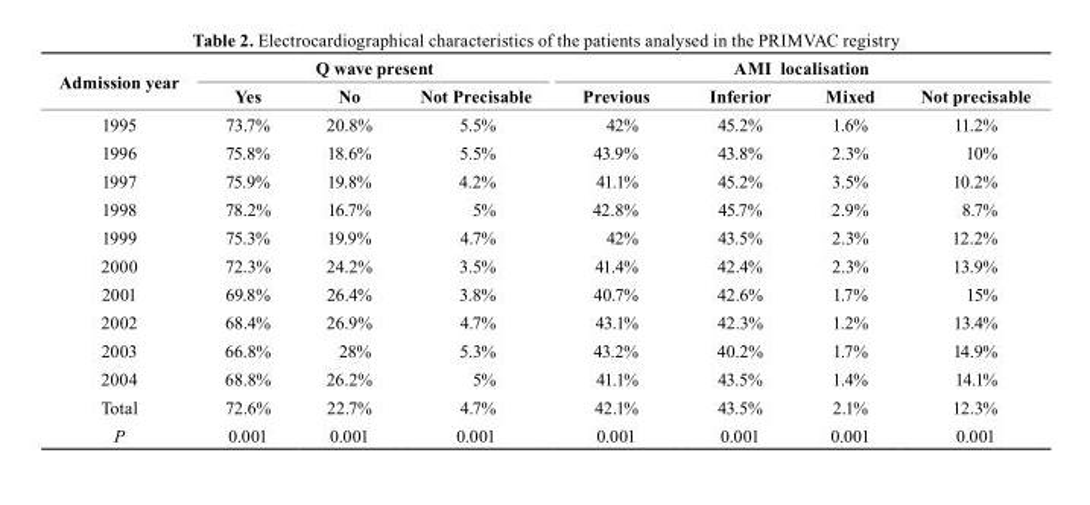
<table><thead><tr><td rowspan="2">Admission year</td><td colspan="3">Q wave present</td><td colspan="4">AMI localisation</td></tr><tr><td>Yes</td><td>No</td><td>not Precisable</td><td>Previous</td><td>Inferior</td><td>Mixed</td><td>Not precisable</td></tr></thead><tbody><tr><td>1995</td><td>73.7%</td><td>20.8%</td><td>5.5%</td><td>42%</td><td>45.2%</td><td>1.6%</td><td>11.2%</td></tr><tr><td>1996</td><td>75.8%</td><td>18.6%</td><td>5.5%</td><td>43.9%</td><td>43.8%</td><td>2.3%</td><td>10%</td></tr><tr><td>1997</td><td>75.9%</td><td>19.8%</td><td>4.2%</td><td>41.1%</td><td>45.2%</td><td>3.5%</td><td>10.2%</td></tr><tr><td>1998</td><td>78.2%</td><td>16.7%</td><td>5%</td><td>42.8%</td><td>45.7%</td><td>2.9%</td><td>8.7%</td></tr><tr><td>1999</td><td>75.3%</td><td>19.9%</td><td>4.7%</td><td>42%</td><td>43.5%</td><td>2.3%</td><td>12.2%</td></tr><tr><td>2000</td><td>72.3%</td><td>24.2%</td><td>3.5%</td><td>41.4%</td><td>42.4%</td><td>2.3%</td><td>13.9%</td></tr><tr><td>2001</td><td>69.8%</td><td>26.4%</td><td>3.8%</td><td>40.7%</td><td>42.6%</td><td>1.7%</td><td>15%</td></tr><tr><td>2002</td><td>68.4%</td><td>26.9%</td><td>4.7%</td><td>43.1%</td><td>42.3%</td><td>1.2%</td><td>13.4%</td></tr><tr><td>2003</td><td>66.8%</td><td>28%</td><td>5.3%</td><td>43.2%</td><td>40.2%</td><td>1.7%</td><td>14.9%</td></tr><tr><td>2004</td><td>68.8%</td><td>26.2%</td><td>5%</td><td>41.1%</td><td>43.5%</td><td>1.4%</td><td>14.1%</td></tr><tr><td>Total</td><td>72.6%</td><td>22.7%</td><td>4.7%</td><td>42.1%</td><td>43.5%</td><td>2.1%</td><td>12.3%</td></tr><tr><td>P</td><td>0.001</td><td>0.001</td><td>0.001</td><td>0.001</td><td>0.001</td><td>0.001</td><td>0.001</td></tr></tbody></table>